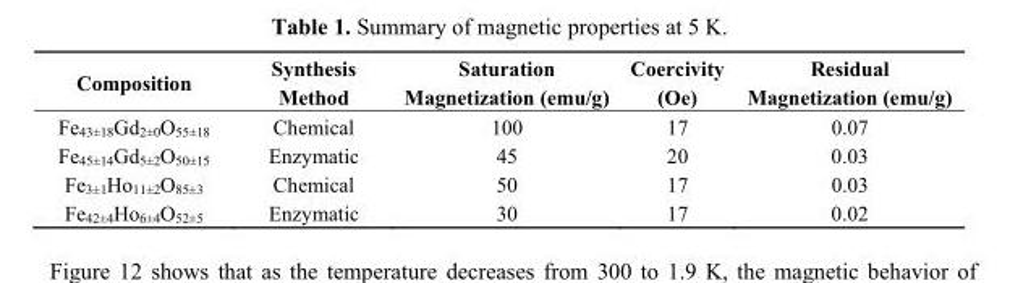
<table><thead><tr><td>Composition</td><td>Synthesis Method</td><td>Saturation Magnetization (emu/g)</td><td>Coercivity (Oe)</td><td>Residual Magnetization (emu/g)</td></tr></thead><tbody><tr><td>Fe<sub>43±18</sub>Gd<sub>2±0</sub>O<sub>55±18</sub></td><td>Chemical</td><td>100</td><td>17</td><td>0.07</td></tr><tr><td>Fe<sub>45±14</sub>Gd<sub>5±2</sub>O<sub>50±15</sub></td><td>Enzymatic</td><td>45</td><td>20</td><td>0.03</td></tr><tr><td>Fe<sub>3±1</sub>Ho<sub>11±2</sub>O<sub>85±3</sub></td><td>Chemical</td><td>50</td><td>17</td><td>0.03</td></tr><tr><td>Fe<sub>42±4</sub>Ho<sub>6±4</sub>O<sub>52±5</sub></td><td>Enzymatic</td><td>30</td><td>17</td><td>0.02</td></tr></tbody></table>